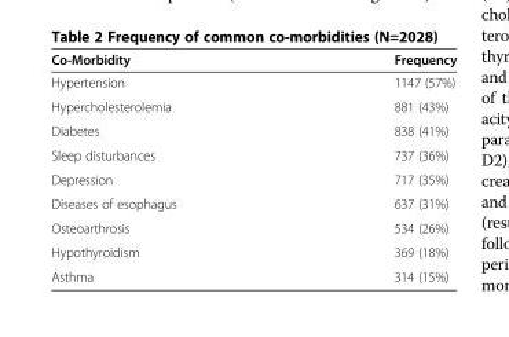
<table><thead><tr><td>Co-Morbidity</td><td>Frequency</td></tr></thead><tbody><tr><td>Hypertension</td><td>1147 (57%)</td></tr><tr><td>Hypercholesterolemia</td><td>881 (43%)</td></tr><tr><td>Diabetes</td><td>838 (41%)</td></tr><tr><td>Sleep disturbances</td><td>737 (36%)</td></tr><tr><td>Depression</td><td>717 (35%)</td></tr><tr><td>Diseases of esophagus</td><td>637 (31%)</td></tr><tr><td>Osteoarthrosis</td><td>534 (26%)</td></tr><tr><td>Hypothyroidism</td><td>369 (18%)</td></tr><tr><td>Asthma</td><td>314 (15%)</td></tr></tbody></table>